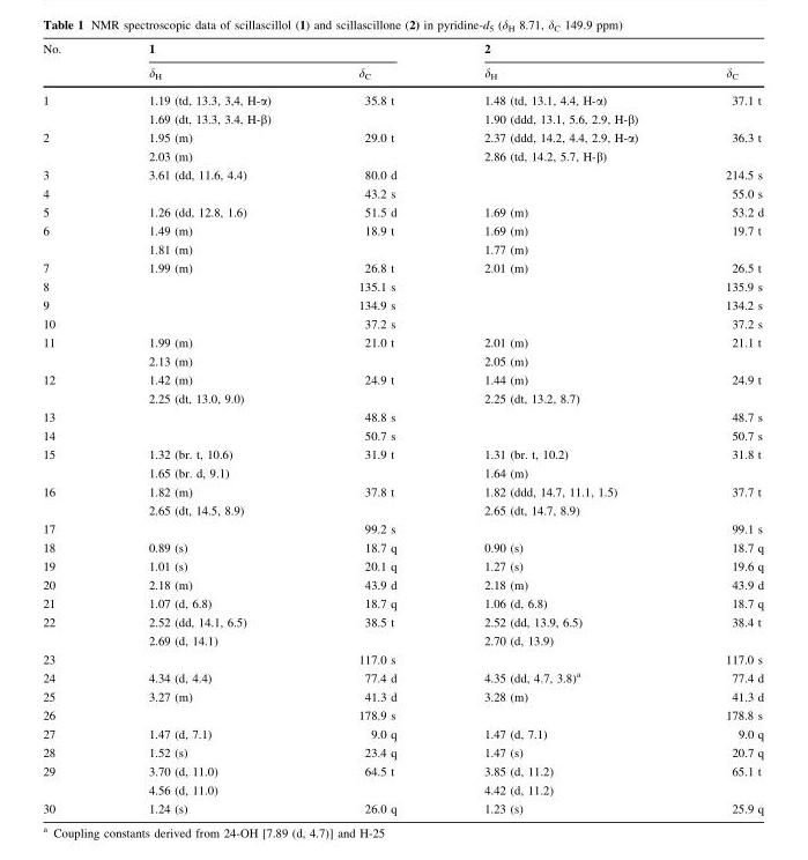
<table><thead><tr><td rowspan="2">No.</td><td colspan="2">1</td><td colspan="2">2</td></tr><tr><td>δ<sub>H</sub></td><td>δ<sub>C</sub></td><td>δ<sub>H</sub></td><td>δ<sub>C</sub></td></tr></thead><tbody><tr><td rowspan="2">1</td><td>1.19 (td, 13.3, 3,4, H-α)</td><td>35.8 t</td><td>1.48 (td, 13.1, 4.4, H-α)</td><td>37.1 t</td></tr><tr><td>1.69 (dt, 13.3, 3.4, H-β)</td><td></td><td>1.90 (ddd, 13.1, 5.6, 2.9, H-β)</td><td></td></tr><tr><td rowspan="2">2</td><td>1.95 (m)</td><td>29.0 t</td><td>2.37 (ddd, 14.2, 4.4, 2.9, H-α)</td><td>36.3 t</td></tr><tr><td>2.03 (m)</td><td></td><td>2.86 (td, 14.2, 5.7, H-β)</td><td></td></tr><tr><td>3</td><td>3.61 (dd, 11.6, 4.4)</td><td>80.0 d</td><td></td><td>214.5 s</td></tr><tr><td>4</td><td></td><td>43.2 s</td><td></td><td>55.0 s</td></tr><tr><td>5</td><td>1.26 (dd, 12.8, 1.6)</td><td>51.5 d</td><td>1.69 (m)</td><td>53.2 d</td></tr><tr><td rowspan="2">6</td><td>1.49 (m)</td><td>18.9 t</td><td>1.69 (m)</td><td>19.7 t</td></tr><tr><td>1.81 (m)</td><td></td><td>1.77 (m)</td><td></td></tr><tr><td>7</td><td>1.99 (m)</td><td>26.8 t</td><td>2.01 (m)</td><td>26.5 t</td></tr><tr><td>8</td><td></td><td>135.1 s</td><td></td><td>135.9 s</td></tr><tr><td>9</td><td></td><td>134.9 s</td><td></td><td>134.2 s</td></tr><tr><td>10</td><td></td><td>37.2 s</td><td></td><td>37.2 s</td></tr><tr><td rowspan="2">11</td><td>1.99 (m)</td><td>21.0 t</td><td>2.01 (m)</td><td>21.1 t</td></tr><tr><td>2.13 (m)</td><td></td><td>2.05 (m)</td><td></td></tr><tr><td rowspan="2">12</td><td>1.42 (m)</td><td>24.9 t</td><td>1.44 (m)</td><td>24.9 t</td></tr><tr><td>2.25 (dt, 13.0, 9.0)</td><td></td><td>2.25 (dt, 13.2, 8.7)</td><td></td></tr><tr><td>13</td><td></td><td>48.8 s</td><td></td><td>48.7 s</td></tr><tr><td>14</td><td></td><td>50.7 s</td><td></td><td>50.7 s</td></tr><tr><td rowspan="2">15</td><td>1.32 (br. t, 10.6)</td><td>31.9 t</td><td>1.31 (br. t, 10.2)</td><td>31.8 t</td></tr><tr><td>1.65 (br. d, 9.1)</td><td></td><td>1.64 (m)</td><td></td></tr><tr><td rowspan="2">16</td><td>1.82 (m)</td><td>37.8 t</td><td>1.82 (ddd, 14.7, 11.1, 1.5)</td><td>37.7 t</td></tr><tr><td>2.65 (dt, 14.5, 8.9)</td><td></td><td>2.65 (dt, 14.7, 8.9)</td><td></td></tr><tr><td>17</td><td></td><td>99.2 s</td><td></td><td>99.1 s</td></tr><tr><td>18</td><td>0.89 (s)</td><td>18.7 q</td><td>0.90 (s)</td><td>18.7 q</td></tr><tr><td>19</td><td>1.01 (s)</td><td>20.1 q</td><td>1.27 (s)</td><td>19.6 q</td></tr><tr><td>20</td><td>2.18 (m)</td><td>43.9 d</td><td>2.18 (m)</td><td>43.9 d</td></tr><tr><td>21</td><td>1.07 (d, 6.8)</td><td>18.7 q</td><td>1.06 (d, 6.8)</td><td>18.7 q</td></tr><tr><td rowspan="2">22</td><td>2.52 (dd, 14.1, 6.5)</td><td>38.5 t</td><td>2.52 (dd, 13.9, 6.5)</td><td>38.4 t</td></tr><tr><td>2.69 (d, 14.1)</td><td></td><td>2.70 (d, 13.9)</td><td></td></tr><tr><td>23</td><td></td><td>117.0 s</td><td></td><td>117.0 s</td></tr><tr><td>24</td><td>4.34 (d, 4.4)</td><td>77.4 d</td><td>4.35 (dd, 4.7, 3.8)<sup>a</sup></td><td>77.4 d</td></tr><tr><td>25</td><td>3.27 (m)</td><td>41.3 d</td><td>3.28 (m)</td><td>41.3 d</td></tr><tr><td>26</td><td></td><td>178.9 s</td><td></td><td>178.8 s</td></tr><tr><td>27</td><td>1.47 (d, 7.1)</td><td>9.0 q</td><td>1.47 (d, 7.1)</td><td>9.0 q</td></tr><tr><td>28</td><td>1.52 (s)</td><td>23.4 q</td><td>1.47 (s)</td><td>20.7 q</td></tr><tr><td rowspan="2">29</td><td>3.70 (d, 11.0)</td><td>64.5 t</td><td>3.85 (d, 11.2)</td><td>65.1 t</td></tr><tr><td>4.56 (d, 11.0)</td><td></td><td>4.42 (d, 11.2)</td><td></td></tr><tr><td>30</td><td>1.24 (s)</td><td>26.0 q</td><td>1.23 (s)</td><td>25.9 q</td></tr></tbody></table>